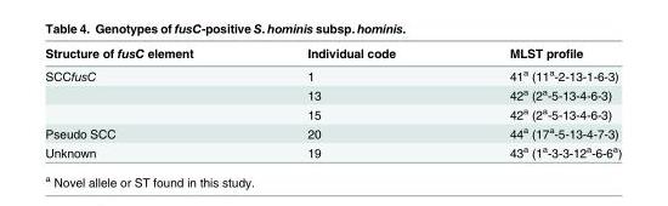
<table><thead><tr><td>Structure of fusC element</td><td>Individual code</td><td>MLST profile</td></tr></thead><tbody><tr><td rowspan="3">SCCfusC</td><td>1</td><td>41<sup>a</sup> (11<sup>a</sup>-2-13-1-6-3)</td></tr><tr><td>13</td><td>42<sup>a</sup> (2<sup>a</sup>-5-13-4-6-3)</td></tr><tr><td>15</td><td>42<sup>a</sup> (2<sup>a</sup>-5-13-4-6-3)</td></tr><tr><td>Pseudo SCC</td><td>20</td><td>44<sup>a</sup> (17<sup>a</sup>-5-13-4-7-3)</td></tr><tr><td>Unknown</td><td>19</td><td>43<sup>a</sup> (1<sup>a</sup>-3-3-12<sup>a</sup>-6-6<sup>a</sup>)</td></tr></tbody></table>